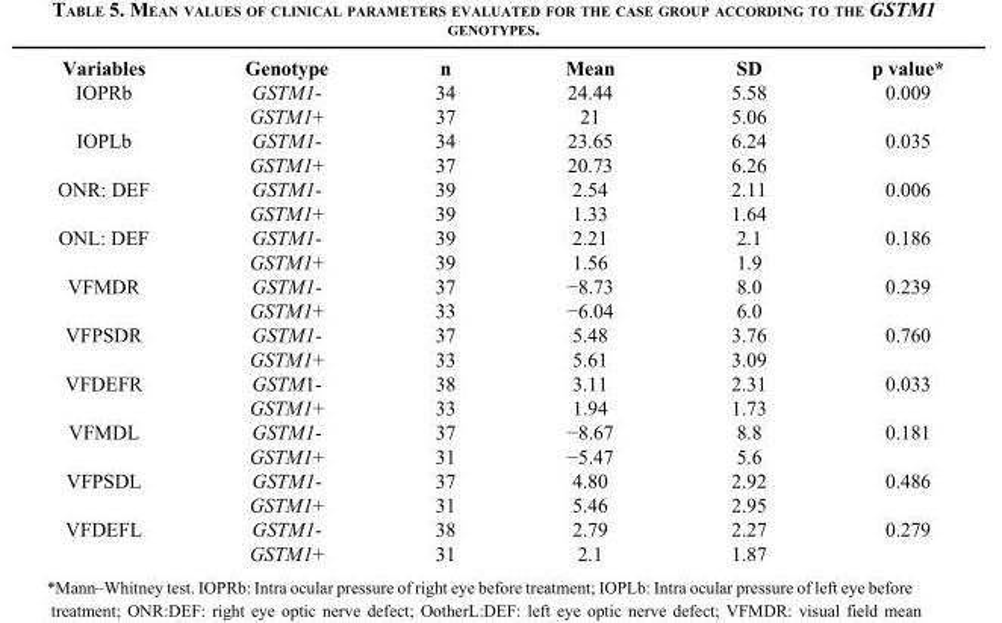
<table><thead><tr><td>Variables</td><td>Genotype</td><td>n</td><td>Mean</td><td>SD</td><td>p value*</td></tr></thead><tbody><tr><td rowspan="2">IOPRb</td><td>GSTM1-</td><td>34</td><td>24.44</td><td>5.58</td><td>0.009</td></tr><tr><td>GSTM1+</td><td>37</td><td>21</td><td>5.06</td><td></td></tr><tr><td rowspan="2">IOPLb</td><td>GSTM1-</td><td>34</td><td>23.65</td><td>6.24</td><td>0.035</td></tr><tr><td>GSTM1+</td><td>37</td><td>20.73</td><td>6.26</td><td></td></tr><tr><td rowspan="2">ONR: DEF</td><td>GSTM1-</td><td>39</td><td>2.54</td><td>2.11</td><td>0.006</td></tr><tr><td>GSTM1+</td><td>39</td><td>1.33</td><td>1.64</td><td></td></tr><tr><td rowspan="2">ONL: DEF</td><td>GSTM1-</td><td>39</td><td>2.21</td><td>2.1</td><td>0.186</td></tr><tr><td>GSTM1+</td><td>39</td><td>1.56</td><td>1.9</td><td></td></tr><tr><td rowspan="2">VFMDR</td><td>GSTM1-</td><td>37</td><td>−8.73</td><td>8.0</td><td>0.239</td></tr><tr><td>GSTM1+</td><td>33</td><td>−6.04</td><td>6.0</td><td></td></tr><tr><td rowspan="2">VFPSDR</td><td>GSTM1-</td><td>37</td><td>5.48</td><td>3.76</td><td>0.760</td></tr><tr><td>GSTM1+</td><td>33</td><td>5.61</td><td>3.09</td><td></td></tr><tr><td rowspan="2">VFDEFR</td><td>GSTM1-</td><td>38</td><td>3.11</td><td>2.31</td><td>0.033</td></tr><tr><td>GSTM1+</td><td>33</td><td>1.94</td><td>1.73</td><td></td></tr><tr><td rowspan="2">VFMDL</td><td>GSTM1-</td><td>37</td><td>−8.67</td><td>8.8</td><td>0.181</td></tr><tr><td>GSTM1+</td><td>31</td><td>−5.47</td><td>5.6</td><td></td></tr><tr><td rowspan="2">VFPSDL</td><td>GSTM1-</td><td>37</td><td>4.80</td><td>2.92</td><td>0.486</td></tr><tr><td>GSTM1+</td><td>31</td><td>5.46</td><td>2.95</td><td></td></tr><tr><td rowspan="2">VFDEFL</td><td>GSTM1-</td><td>38</td><td>2.79</td><td>2.27</td><td>0.279</td></tr><tr><td>GSTM1+</td><td>31</td><td>2.1</td><td>1.87</td><td></td></tr></tbody></table>